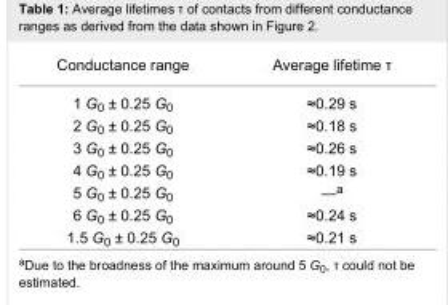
<table><tbody><tr><td>Conductance range</td><td>Average lifetime τ</td></tr><tr><td>1 G<sub>0</sub> ± 0.25 G<sub>0</sub></td><td>≈0.29 s</td></tr><tr><td>2 G<sub>0</sub> ± 0.25 G<sub>0</sub></td><td>≈0.18 s</td></tr><tr><td>3 G<sub>0</sub> ± 0.25 G<sub>0</sub></td><td>≈0.26 s</td></tr><tr><td>4 G<sub>0</sub> ± 0.25 G<sub>0</sub></td><td>≈0.19 s</td></tr><tr><td>5 G<sub>0</sub> ± 0.25 G<sub>0</sub></td><td>—<sup>a</sup></td></tr><tr><td>6 G<sub>0</sub> ± 0.25 G<sub>0</sub></td><td>≈0.24 s</td></tr><tr><td>1.5 G<sub>0</sub> ± 0.25 G<sub>0</sub></td><td>≈0.21 s</td></tr></tbody></table>